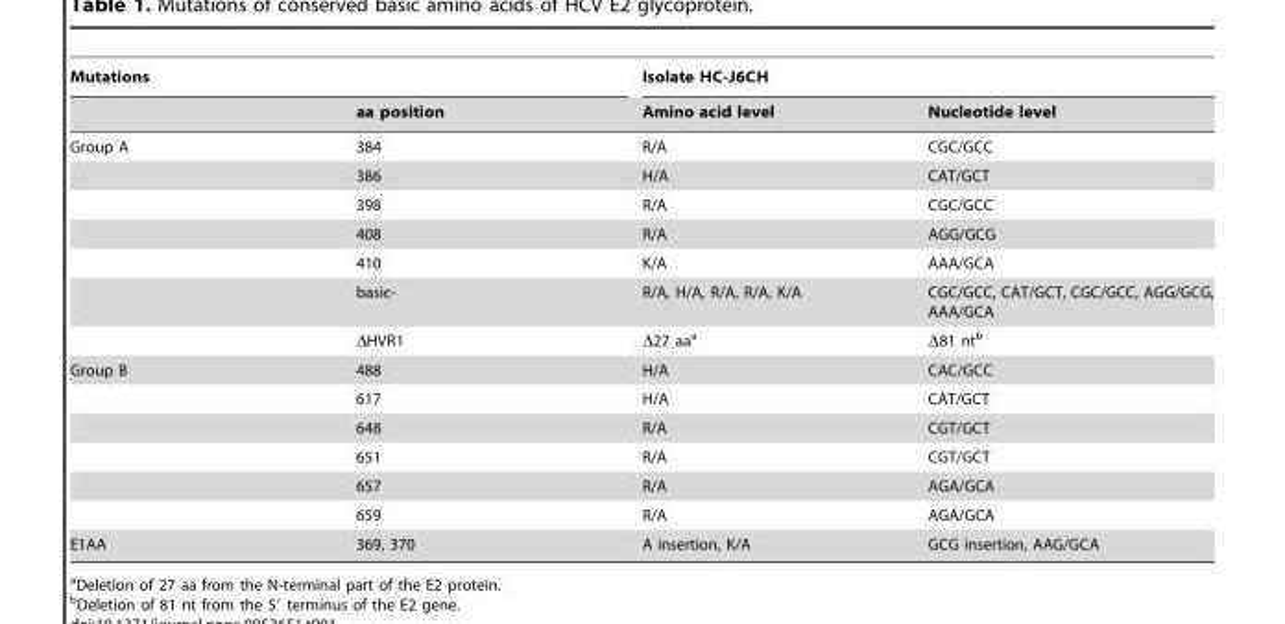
<table><thead><tr><td colspan="2">Mutations</td><td colspan="2">Isolate HC-J6CH</td></tr><tr><td></td><td>aa position</td><td>Amino acid level</td><td>Nucleotide level</td></tr></thead><tbody><tr><td rowspan="7">Group A</td><td>384</td><td>R/A</td><td>CGC/GCC</td></tr><tr><td>386</td><td>H/A</td><td>CAT/GCT</td></tr><tr><td>398</td><td>R/A</td><td>CGC/GCC</td></tr><tr><td>408</td><td>R/A</td><td>AGG/GCG</td></tr><tr><td>410</td><td>K/A</td><td>AAA/GCA</td></tr><tr><td>basic-</td><td>R/A, H/A, R/A, R/A, K/A</td><td>CGC/GCC, CAT/GCT, CGC/GCC, AGG/GCG, AAA/GCA</td></tr><tr><td>ΔHVR1</td><td>Δ27 aa<sup>a</sup></td><td>Δ81 nt<sup>b</sup></td></tr><tr><td rowspan="6">Group B</td><td>488</td><td>H/A</td><td>CAC/GCC</td></tr><tr><td>617</td><td>H/A</td><td>CAT/GCT</td></tr><tr><td>648</td><td>R/A</td><td>CGT/GCT</td></tr><tr><td>651</td><td>R/A</td><td>CGT/GCT</td></tr><tr><td>657</td><td>R/A</td><td>AGA/GCA</td></tr><tr><td>659</td><td>R/A</td><td>AGA/GCA</td></tr><tr><td>E1AA</td><td>369, 370</td><td>A insertion, K/A</td><td>GCG insertion, AAG/GCA</td></tr></tbody></table>